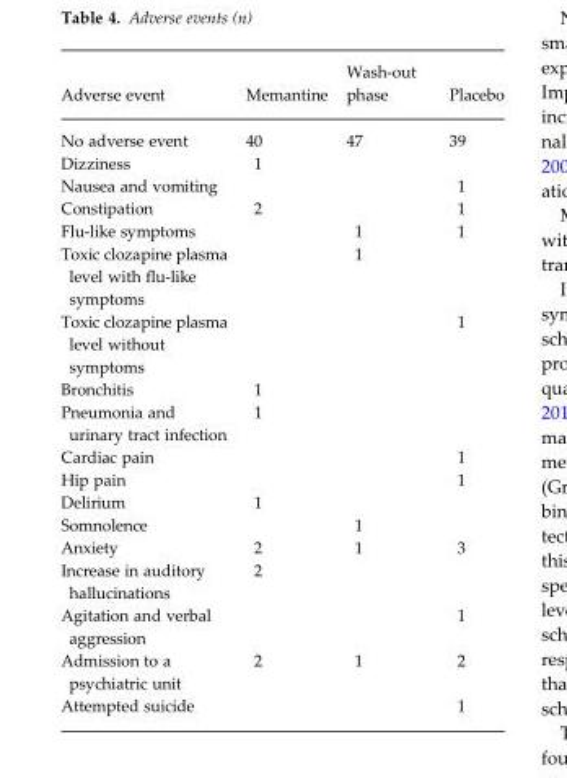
<table><thead><tr><td>Adverse event</td><td>Memantine</td><td>Wash-out phase</td><td>Placebo</td></tr></thead><tbody><tr><td>No adverse event</td><td>40</td><td>47</td><td>39</td></tr><tr><td>Dizziness</td><td>1</td><td></td><td></td></tr><tr><td>Nausea and vomiting</td><td></td><td></td><td>1</td></tr><tr><td>Constipation</td><td>2</td><td></td><td>1</td></tr><tr><td>Flu-like symptoms</td><td></td><td>1</td><td>1</td></tr><tr><td>Toxic clozapine plasma level with flu-like symptoms</td><td></td><td>1</td><td></td></tr><tr><td>Toxic clozapine plasma level without symptoms</td><td></td><td></td><td>1</td></tr><tr><td>Bronchitis</td><td>1</td><td></td><td></td></tr><tr><td>Pneumonia and urinary tract infection</td><td>1</td><td></td><td></td></tr><tr><td>Cardiac pain</td><td></td><td></td><td>1</td></tr><tr><td>Hip pain</td><td></td><td></td><td>1</td></tr><tr><td>Delirium</td><td>1</td><td></td><td></td></tr><tr><td>Somnolence</td><td></td><td>1</td><td></td></tr><tr><td>Anxiety</td><td>2</td><td>1</td><td>3</td></tr><tr><td>Increase in auditory hallucinations</td><td>2</td><td></td><td></td></tr><tr><td>Agitation and verbal aggression</td><td></td><td></td><td>1</td></tr><tr><td>Admission to a psychiatric unit</td><td>2</td><td>1</td><td>2</td></tr><tr><td>Attempted suicide</td><td></td><td></td><td>1</td></tr></tbody></table>